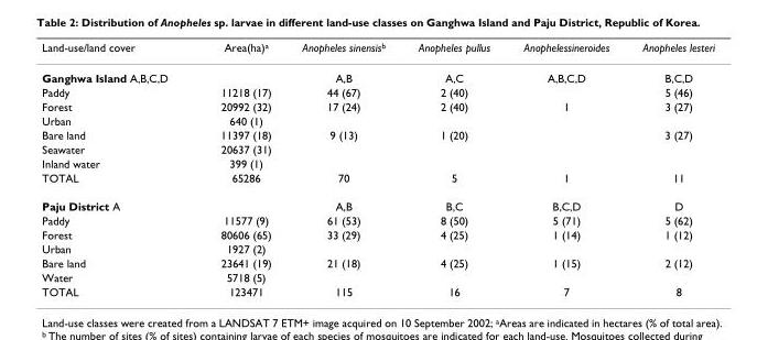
<table><thead><tr><td>Land-use/land cover</td><td>Area(ha)<sup>a</sup></td><td>Anopheles sinensis<sup>b</sup></td><td>Anopheles pullus</td><td>Anophelessineroides</td><td>Anopheles lesteri</td></tr></thead><tbody><tr><td>Ganghwa Island A,B,C,D</td><td></td><td>A,B</td><td>A,C</td><td>A,B,C,D</td><td>B,C,D</td></tr><tr><td>Paddy</td><td>11218 (17)</td><td>44 (67)</td><td>2 (40)</td><td></td><td>5 (46)</td></tr><tr><td>Forest</td><td>20992 (32)</td><td>17 (24)</td><td>2 (40)</td><td>1</td><td>3 (27)</td></tr><tr><td>Urban</td><td>640 (1)</td><td></td><td></td><td></td><td></td></tr><tr><td>Bare land</td><td>11397 (18)</td><td>9 (13)</td><td>1 (20)</td><td></td><td>3 (27)</td></tr><tr><td>Seawater</td><td>20637 (31)</td><td></td><td></td><td></td><td></td></tr><tr><td>Inland water</td><td>399 (1)</td><td></td><td></td><td></td><td></td></tr><tr><td>TOTAL</td><td>65286</td><td>70</td><td>5</td><td>1</td><td>11</td></tr><tr><td>Paju District A</td><td></td><td>A,B</td><td>B,C</td><td>B,C,D</td><td>D</td></tr><tr><td>Paddy</td><td>11577 (9)</td><td>61 (53)</td><td>8 (50)</td><td>5 (71)</td><td>5 (62)</td></tr><tr><td>Forest</td><td>80606 (65)</td><td>33 (29)</td><td>4 (25)</td><td>1 (14)</td><td>1 (12)</td></tr><tr><td>Urban</td><td>1927 (2)</td><td></td><td></td><td></td><td></td></tr><tr><td>Bare land</td><td>23641 (19)</td><td>21 (18)</td><td>4 (25)</td><td>1 (15)</td><td>2 (12)</td></tr><tr><td>Water</td><td>5718 (5)</td><td></td><td></td><td></td><td></td></tr><tr><td>TOTAL</td><td>123471</td><td>115</td><td>16</td><td>7</td><td>8</td></tr></tbody></table>